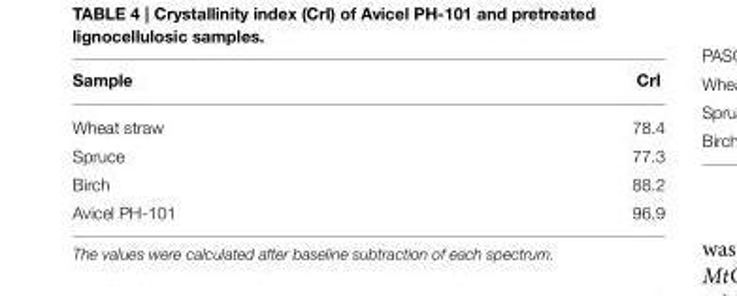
<table><thead><tr><td>Sample</td><td>CrI</td></tr></thead><tbody><tr><td>Wheat straw</td><td>78.4</td></tr><tr><td>Spruce</td><td>77.3</td></tr><tr><td>Birch</td><td>88.2</td></tr><tr><td>Avicel PH-101</td><td>96.9</td></tr></tbody></table>